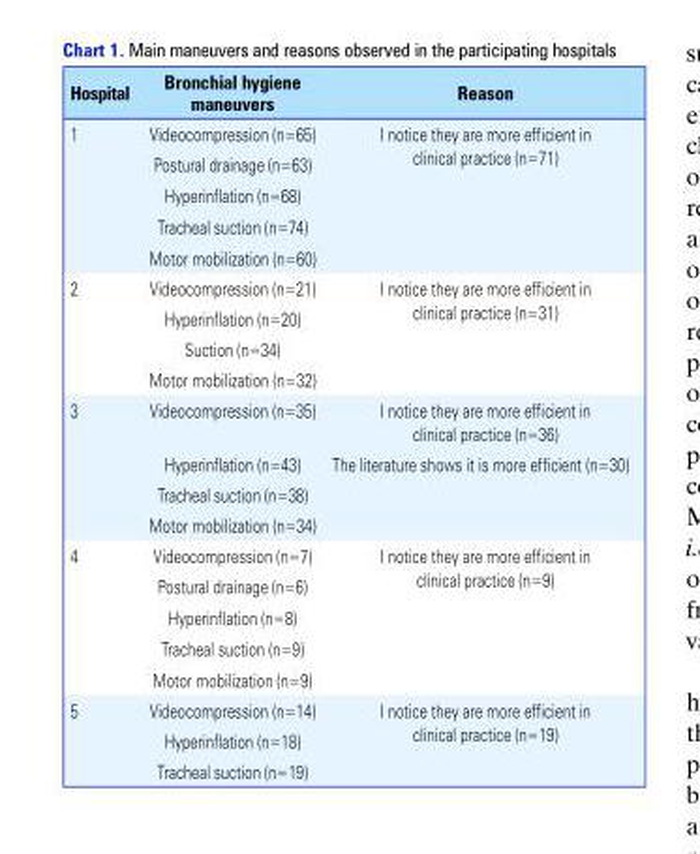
<table><thead><tr><td>Hospital</td><td>Bronchial hygiene maneuvers</td><td>Reason</td></tr></thead><tbody><tr><td rowspan="5">1</td><td>Videocompression (n=65)</td><td rowspan="5">I notice they are more efficient in clinical practice (n=71)</td></tr><tr><td>Postural drainage (n=63)</td></tr><tr><td>Hyperinflation (n=68)</td></tr><tr><td>Tracheal suction (n=74)</td></tr><tr><td>Motor mobilization (n=60)</td></tr><tr><td rowspan="4">2</td><td>Videocompression (n=21)</td><td rowspan="4">I notice they are more efficient in clinical practice (n=31)</td></tr><tr><td>Hyperinflation (n=20)</td></tr><tr><td>Suction (n=34)</td></tr><tr><td>Motor mobilization (n=32)</td></tr><tr><td rowspan="4">3</td><td>Videocompression (n=35)</td><td>I notice they are more efficient in clinical practice (n=36)</td></tr><tr><td>Hyperinflation (n=43)</td><td>The literature shows it is more efficient (n=30)</td></tr><tr><td>Tracheal suction (n=38)</td><td rowspan="2"></td></tr><tr><td>Motor mobilization (n=34)</td></tr><tr><td rowspan="5">4</td><td>Videocompression (n=7)</td><td rowspan="5">I notice they are more efficient in clinical practice (n=9)</td></tr><tr><td>Postural drainage (n=6)</td></tr><tr><td>Hyperinflation (n=8)</td></tr><tr><td>Tracheal suction (n=9)</td></tr><tr><td>Motor mobilization (n=9)</td></tr><tr><td rowspan="3">5</td><td>Videocompression (n=14)</td><td rowspan="3">I notice they are more efficient in clinical practice (n=19)</td></tr><tr><td>Hyperinflation (n=18)</td></tr><tr><td>Tracheal suction (n=19)</td></tr></tbody></table>